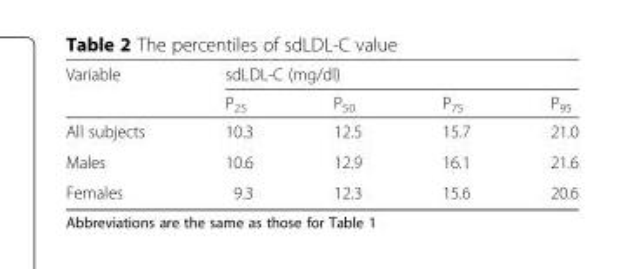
<table><thead><tr><td rowspan="2">Variable</td><td colspan="4">sdLDL-C (mg/dl)</td></tr><tr><td>P<sub>25</sub></td><td>P<sub>50</sub></td><td>P<sub>75</sub></td><td>P<sub>95</sub></td></tr></thead><tbody><tr><td>All subjects</td><td>10.3</td><td>12.5</td><td>15.7</td><td>21.0</td></tr><tr><td>Males</td><td>10.6</td><td>12.9</td><td>16.1</td><td>21.6</td></tr><tr><td>Females</td><td>9.3</td><td>12.3</td><td>15.6</td><td>20.6</td></tr></tbody></table>